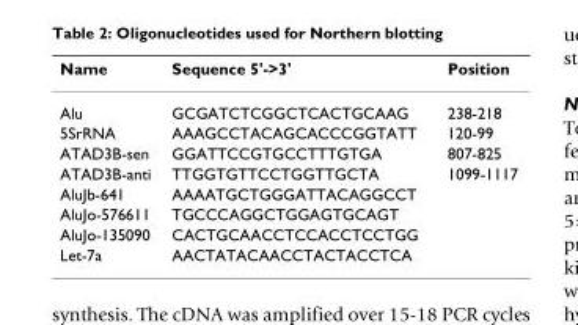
<table><thead><tr><td>Name</td><td>Sequence 5&#x27;-&gt;3&#x27;</td><td>Position</td></tr></thead><tbody><tr><td>Alu</td><td>GCGATCTCGGCTCACTGCAAG</td><td>238-218</td></tr><tr><td>5SrRNA</td><td>AAAGCCTACAGCACCCGGTATT</td><td>120-99</td></tr><tr><td>ATAD3B-sen</td><td>GGATTCCGTGCCTTTGTGA</td><td>807-825</td></tr><tr><td>ATAD3B-anti</td><td>TTGGTGTTCCTGGTTGCTA</td><td>1099-1117</td></tr><tr><td>AluJb-641</td><td>AAAATGCTGGGATTACAGGCCT</td><td></td></tr><tr><td>AluJo-576611</td><td>TGCCCAGGCTGGAGTGCAGT</td><td></td></tr><tr><td>AluJo-135090</td><td>CACTGCAACCTCCACCTCCTGG</td><td></td></tr><tr><td>Let-7a</td><td>AACTATACAACCTACTACCTCA</td><td></td></tr></tbody></table>